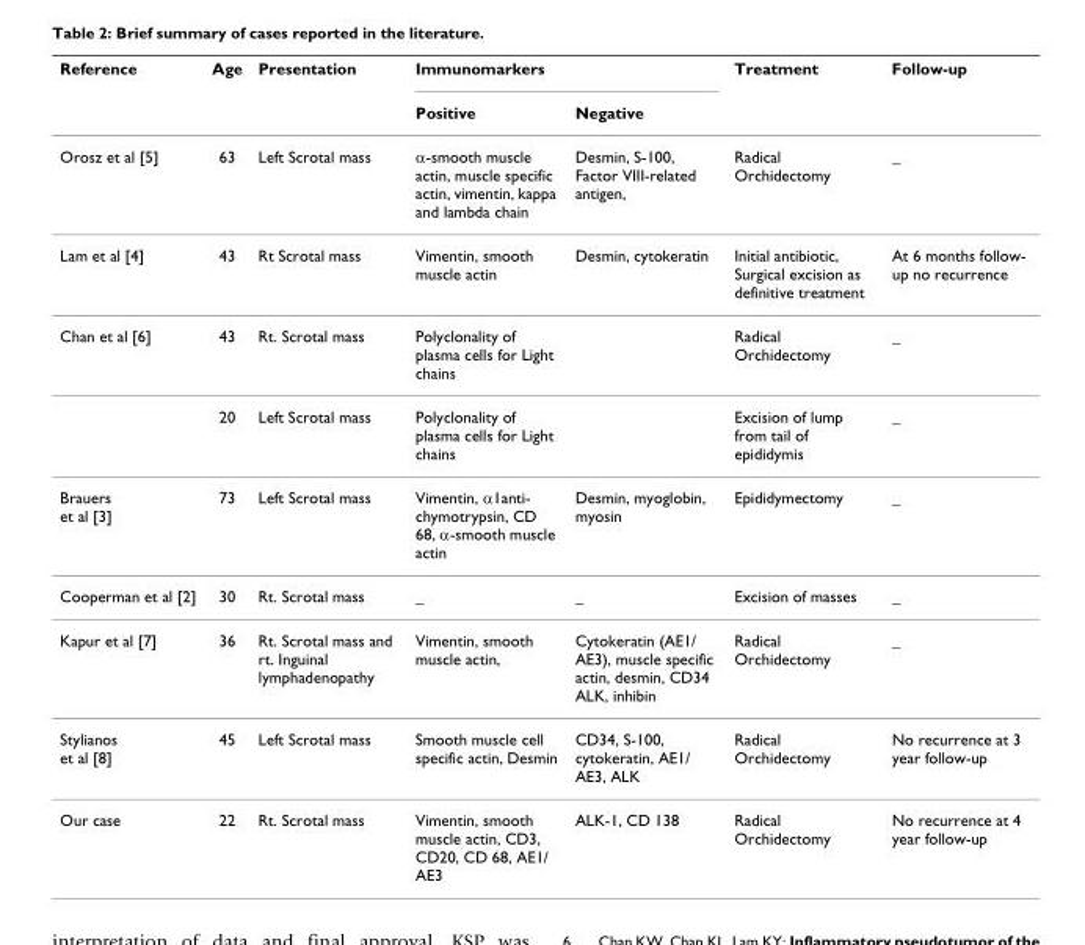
<table><thead><tr><td rowspan="2">Reference</td><td rowspan="2">Age</td><td rowspan="2">Presentation</td><td colspan="2">Immunomarkers</td><td rowspan="2">Treatment</td><td rowspan="2">Follow-up</td></tr><tr><td>Positive</td><td>Negative</td></tr></thead><tbody><tr><td>Orosz et al [5]</td><td>63</td><td>Left Scrotal mass</td><td>α-smooth muscle actin, muscle specific actin, vimentin, kappa and lambda chain</td><td>Desmin, S-100, Factor VIII-related antigen,</td><td>Radical Orchidectomy</td><td>_</td></tr><tr><td>Lam et al [4]</td><td>43</td><td>Rt Scrotal mass</td><td>Vimentin, smooth muscle actin</td><td>Desmin, cytokeratin</td><td>Initial antibiotic, Surgical excision as definitive treatment</td><td>At 6 months follow- up no recurrence</td></tr><tr><td rowspan="2">Chan et al [6]</td><td>43</td><td>Rt. Scrotal mass</td><td>Polyclonality of plasma cells for Light chains</td><td></td><td>Radical Orchidectomy</td><td>_</td></tr><tr><td>20</td><td>Left Scrotal mass</td><td>Polyclonality of plasma cells for Light chains</td><td></td><td>Excision of lump from tail of epididymis</td><td>_</td></tr><tr><td>Brauers et al [3]</td><td>73</td><td>Left Scrotal mass</td><td>Vimentin, α1anti- chymotrypsin, CD 68, α-smooth muscle actin</td><td>Desmin, myoglobin, myosin</td><td>Epididymectomy</td><td>_</td></tr><tr><td>Cooperman et al [2]</td><td>30</td><td>Rt. Scrotal mass</td><td>_</td><td>_</td><td>Excision of masses</td><td>_</td></tr><tr><td>Kapur et al [7]</td><td>36</td><td>Rt. Scrotal mass and rt. Inguinal lymphadenopathy</td><td>Vimentin, smooth muscle actin,</td><td>Cytokeratin (AE1/ AE3), muscle specific actin, desmin, CD34 ALK, inhibin</td><td>Radical Orchidectomy</td><td>_</td></tr><tr><td>Stylianos et al [8]</td><td>45</td><td>Left Scrotal mass</td><td>Smooth muscle cell specific actin, Desmin</td><td>CD34, S-100, cytokeratin, AE1/ AE3, ALK</td><td>Radical Orchidectomy</td><td>No recurrence at 3 year follow-up</td></tr><tr><td>Our case</td><td>22</td><td>Rt. Scrotal mass</td><td>Vimentin, smooth muscle actin, CD3, CD20, CD 68, AE1/ AE3</td><td>ALK-1, CD 138</td><td>Radical Orchidectomy</td><td>No recurrence at 4 year follow-up</td></tr></tbody></table>